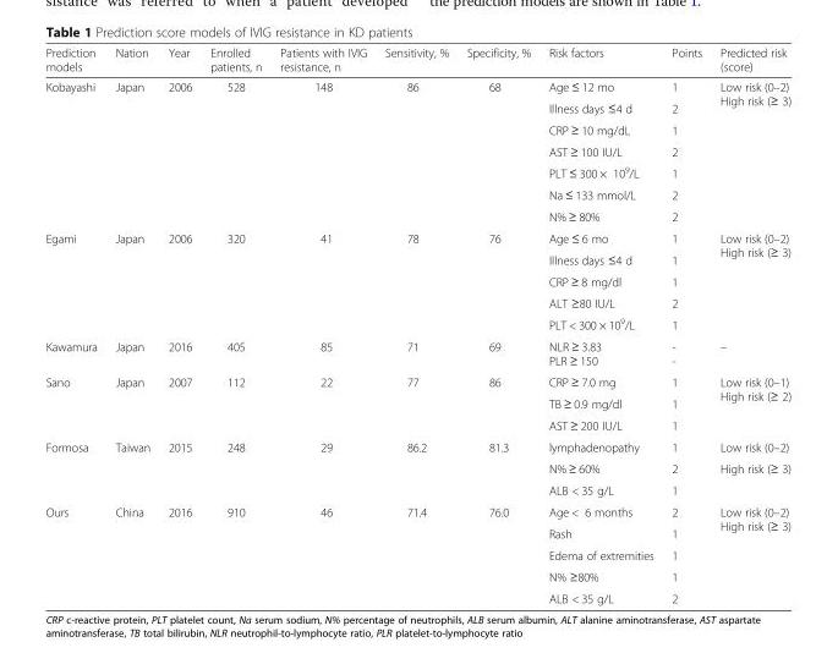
<table><thead><tr><td>Prediction models</td><td>Nation</td><td>Year</td><td>Enrolled patients, n</td><td>Patients with IVIG resistance, n</td><td>Sensitivity, %</td><td>Specificity, %</td><td>Risk factors</td><td>Points</td><td>Predicted risk (score)</td></tr></thead><tbody><tr><td rowspan="7">Kobayashi</td><td rowspan="7">Japan</td><td rowspan="7">2006</td><td rowspan="7">528</td><td rowspan="7">148</td><td rowspan="7">86</td><td rowspan="7">68</td><td>Age ≤ 12 mo</td><td>1</td><td rowspan="7">Low risk (0–2) High risk (≥ 3)</td></tr><tr><td>Illness days ≤4 d</td><td>2</td></tr><tr><td>CRP ≥ 10 mg/dL</td><td>1</td></tr><tr><td>AST ≥ 100 IU/L</td><td>2</td></tr><tr><td>PLT ≤ 300 × 10<sup>9</sup>/L</td><td>1</td></tr><tr><td>Na ≤ 133 mmol/L</td><td>2</td></tr><tr><td>N% ≥ 80%</td><td>2</td></tr><tr><td rowspan="5">Egami</td><td rowspan="5">Japan</td><td rowspan="5">2006</td><td rowspan="5">320</td><td rowspan="5">41</td><td rowspan="5">78</td><td rowspan="5">76</td><td>Age ≤ 6 mo</td><td>1</td><td rowspan="5">Low risk (0–2) High risk (≥ 3)</td></tr><tr><td>Illness days ≤4 d</td><td>1</td></tr><tr><td>CRP ≥ 8 mg/dl</td><td>1</td></tr><tr><td>ALT ≥80 IU/L</td><td>2</td></tr><tr><td>PLT &lt; 300 × 10<sup>9</sup>/L</td><td>1</td></tr><tr><td>Kawamura</td><td>Japan</td><td>2016</td><td>405</td><td>85</td><td>71</td><td>69</td><td>NLR ≥ 3.83 PLR ≥ 150</td><td>- -</td><td>–</td></tr><tr><td rowspan="3">Sano</td><td rowspan="3">Japan</td><td rowspan="3">2007</td><td rowspan="3">112</td><td rowspan="3">22</td><td rowspan="3">77</td><td rowspan="3">86</td><td>CRP ≥ 7.0 mg</td><td>1</td><td rowspan="3">Low risk (0–1) High risk (≥ 2)</td></tr><tr><td>TB ≥ 0.9 mg/dl</td><td>1</td></tr><tr><td>AST ≥ 200 IU/L</td><td>1</td></tr><tr><td rowspan="3">Formosa</td><td rowspan="3">Taiwan</td><td rowspan="3">2015</td><td rowspan="3">248</td><td rowspan="3">29</td><td rowspan="3">86.2</td><td rowspan="3">81.3</td><td>lymphadenopathy</td><td>1</td><td>Low risk (0–2)</td></tr><tr><td>N% ≥ 60%</td><td>2</td><td>High risk (≥ 3)</td></tr><tr><td>ALB &lt; 35 g/L</td><td>1</td><td></td></tr><tr><td rowspan="5">Ours</td><td rowspan="5">China</td><td rowspan="5">2016</td><td rowspan="5">910</td><td rowspan="5">46</td><td rowspan="5">71.4</td><td rowspan="5">76.0</td><td>Age &lt; 6 months</td><td>2</td><td rowspan="5">Low risk (0–2) High risk (≥ 3)</td></tr><tr><td>Rash</td><td>1</td></tr><tr><td>Edema of extremities</td><td>1</td></tr><tr><td>N% ≥80%</td><td>1</td></tr><tr><td>ALB &lt; 35 g/L</td><td>2</td></tr></tbody></table>